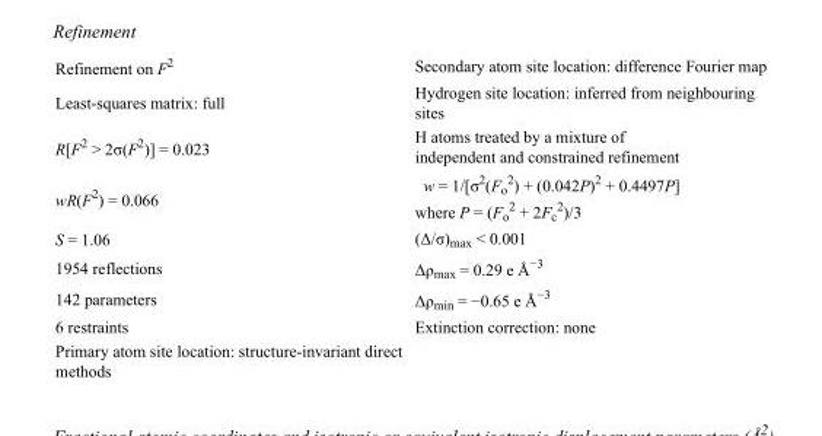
<table><tbody><tr><td>Refinement on F<sup>2</sup></td><td>Secondary atom site location: difference Fourier map</td></tr><tr><td>Least-squares matrix: full</td><td>Hydrogen site location: inferred from neighbouring sites</td></tr><tr><td>R[F<sup>2</sup> &gt; 2σ(F<sup>2</sup>)] = 0.023</td><td>H atoms treated by a mixture of independent and constrained refinement</td></tr><tr><td>wR(F<sup>2</sup>) = 0.066</td><td>w = 1/[σ<sup>2</sup>(F<sub>o</sub> <sup>2</sup>) + (0.042P)<sup>2</sup> + 0.4497P] where P = (F<sub>o</sub> <sup>2</sup> + 2F<sub>c</sub> <sup>2</sup>)/3</td></tr><tr><td>S = 1.06</td><td>(Δ/σ)<sub>max</sub> &lt; 0.001</td></tr><tr><td>1954 reflections</td><td>Δρ<sub>max</sub> = 0.29 e Å<sup>−3</sup></td></tr><tr><td>142 parameters</td><td>Δρ<sub>min</sub> = −0.65 e Å<sup>−3</sup></td></tr><tr><td>6 restraints</td><td>Extinction correction: none</td></tr><tr><td>Primary atom site location: structure-invariant direct methods</td><td></td></tr></tbody></table>